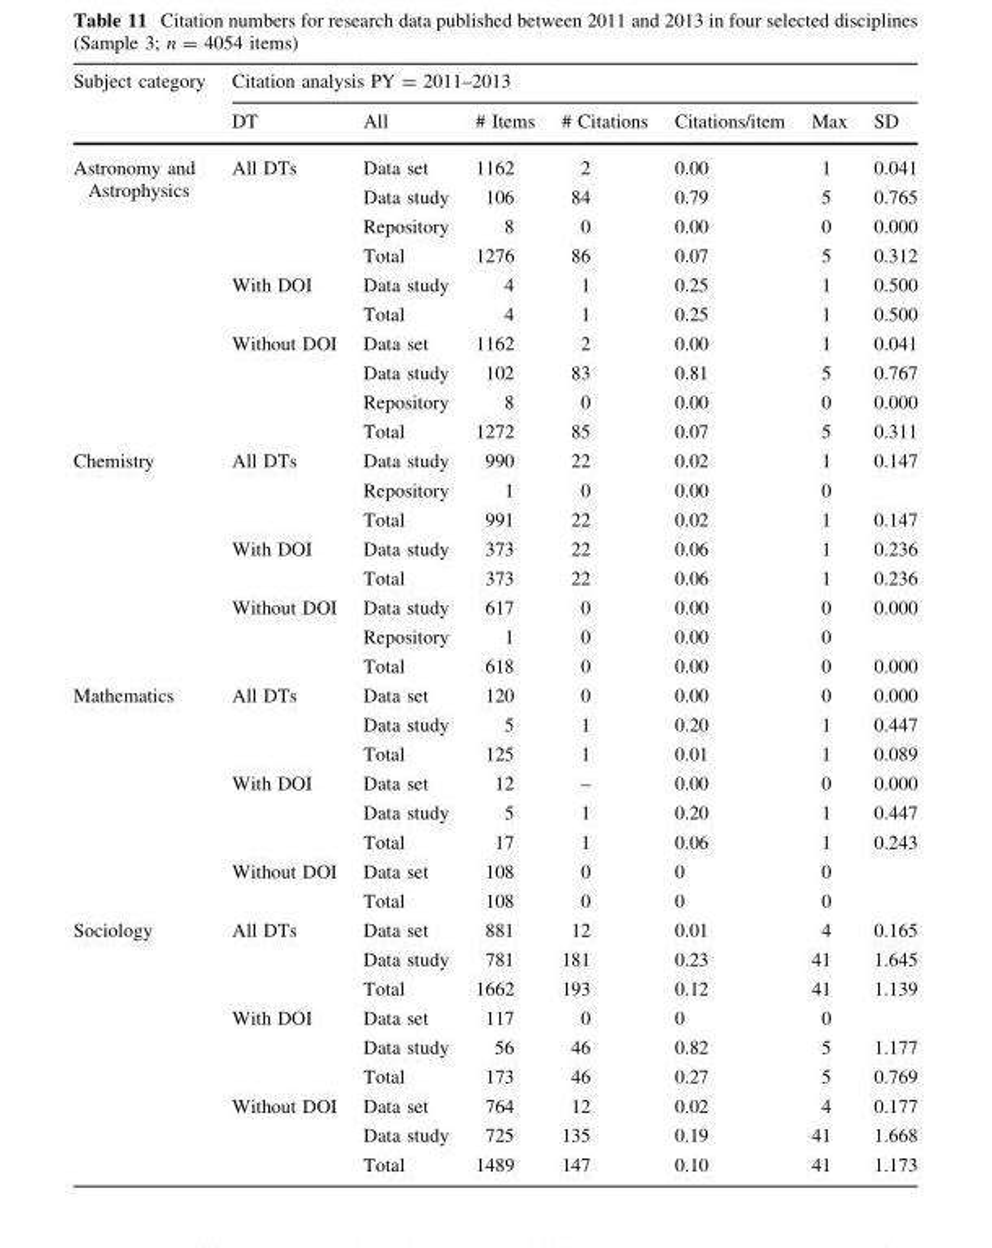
<table><thead><tr><td rowspan="2">Subject category</td><td colspan="7">Citation analysis PY = 2011–2013</td></tr><tr><td>DT</td><td>All</td><td># Items</td><td># Citations</td><td>Citations/item</td><td>Max</td><td>SD</td></tr></thead><tbody><tr><td rowspan="10">Astronomy and Astrophysics</td><td rowspan="4">All DTs</td><td>Data set</td><td>1162</td><td>2</td><td>0.00</td><td>1</td><td>0.041</td></tr><tr><td>Data study</td><td>106</td><td>84</td><td>0.79</td><td>5</td><td>0.765</td></tr><tr><td>Repository</td><td>8</td><td>0</td><td>0.00</td><td>0</td><td>0.000</td></tr><tr><td>Total</td><td>1276</td><td>86</td><td>0.07</td><td>5</td><td>0.312</td></tr><tr><td rowspan="2">With DOI</td><td>Data study</td><td>4</td><td>1</td><td>0.25</td><td>1</td><td>0.500</td></tr><tr><td>Total</td><td>4</td><td>1</td><td>0.25</td><td>1</td><td>0.500</td></tr><tr><td rowspan="4">Without DOI</td><td>Data set</td><td>1162</td><td>2</td><td>0.00</td><td>1</td><td>0.041</td></tr><tr><td>Data study</td><td>102</td><td>83</td><td>0.81</td><td>5</td><td>0.767</td></tr><tr><td>Repository</td><td>8</td><td>0</td><td>0.00</td><td>0</td><td>0.000</td></tr><tr><td>Total</td><td>1272</td><td>85</td><td>0.07</td><td>5</td><td>0.311</td></tr><tr><td rowspan="8">Chemistry</td><td rowspan="3">All DTs</td><td>Data study</td><td>990</td><td>22</td><td>0.02</td><td>1</td><td>0.147</td></tr><tr><td>Repository</td><td>1</td><td>0</td><td>0.00</td><td>0</td><td></td></tr><tr><td>Total</td><td>991</td><td>22</td><td>0.02</td><td>1</td><td>0.147</td></tr><tr><td rowspan="2">With DOI</td><td>Data study</td><td>373</td><td>22</td><td>0.06</td><td>1</td><td>0.236</td></tr><tr><td>Total</td><td>373</td><td>22</td><td>0.06</td><td>1</td><td>0.236</td></tr><tr><td rowspan="3">Without DOI</td><td>Data study</td><td>617</td><td>0</td><td>0.00</td><td>0</td><td>0.000</td></tr><tr><td>Repository</td><td>1</td><td>0</td><td>0.00</td><td>0</td><td></td></tr><tr><td>Total</td><td>618</td><td>0</td><td>0.00</td><td>0</td><td>0.000</td></tr><tr><td rowspan="8">Mathematics</td><td rowspan="3">All DTs</td><td>Data set</td><td>120</td><td>0</td><td>0.00</td><td>0</td><td>0.000</td></tr><tr><td>Data study</td><td>5</td><td>1</td><td>0.20</td><td>1</td><td>0.447</td></tr><tr><td>Total</td><td>125</td><td>1</td><td>0.01</td><td>1</td><td>0.089</td></tr><tr><td rowspan="3">With DOI</td><td>Data set</td><td>12</td><td>–</td><td>0.00</td><td>0</td><td>0.000</td></tr><tr><td>Data study</td><td>5</td><td>1</td><td>0.20</td><td>1</td><td>0.447</td></tr><tr><td>Total</td><td>17</td><td>1</td><td>0.06</td><td>1</td><td>0.243</td></tr><tr><td rowspan="2">Without DOI</td><td>Data set</td><td>108</td><td>0</td><td>0</td><td>0</td><td></td></tr><tr><td>Total</td><td>108</td><td>0</td><td>0</td><td>0</td><td></td></tr><tr><td rowspan="9">Sociology</td><td rowspan="3">All DTs</td><td>Data set</td><td>881</td><td>12</td><td>0.01</td><td>4</td><td>0.165</td></tr><tr><td>Data study</td><td>781</td><td>181</td><td>0.23</td><td>41</td><td>1.645</td></tr><tr><td>Total</td><td>1662</td><td>193</td><td>0.12</td><td>41</td><td>1.139</td></tr><tr><td rowspan="3">With DOI</td><td>Data set</td><td>117</td><td>0</td><td>0</td><td>0</td><td></td></tr><tr><td>Data study</td><td>56</td><td>46</td><td>0.82</td><td>5</td><td>1.177</td></tr><tr><td>Total</td><td>173</td><td>46</td><td>0.27</td><td>5</td><td>0.769</td></tr><tr><td rowspan="3">Without DOI</td><td>Data set</td><td>764</td><td>12</td><td>0.02</td><td>4</td><td>0.177</td></tr><tr><td>Data study</td><td>725</td><td>135</td><td>0.19</td><td>41</td><td>1.668</td></tr><tr><td>Total</td><td>1489</td><td>147</td><td>0.10</td><td>41</td><td>1.173</td></tr></tbody></table>